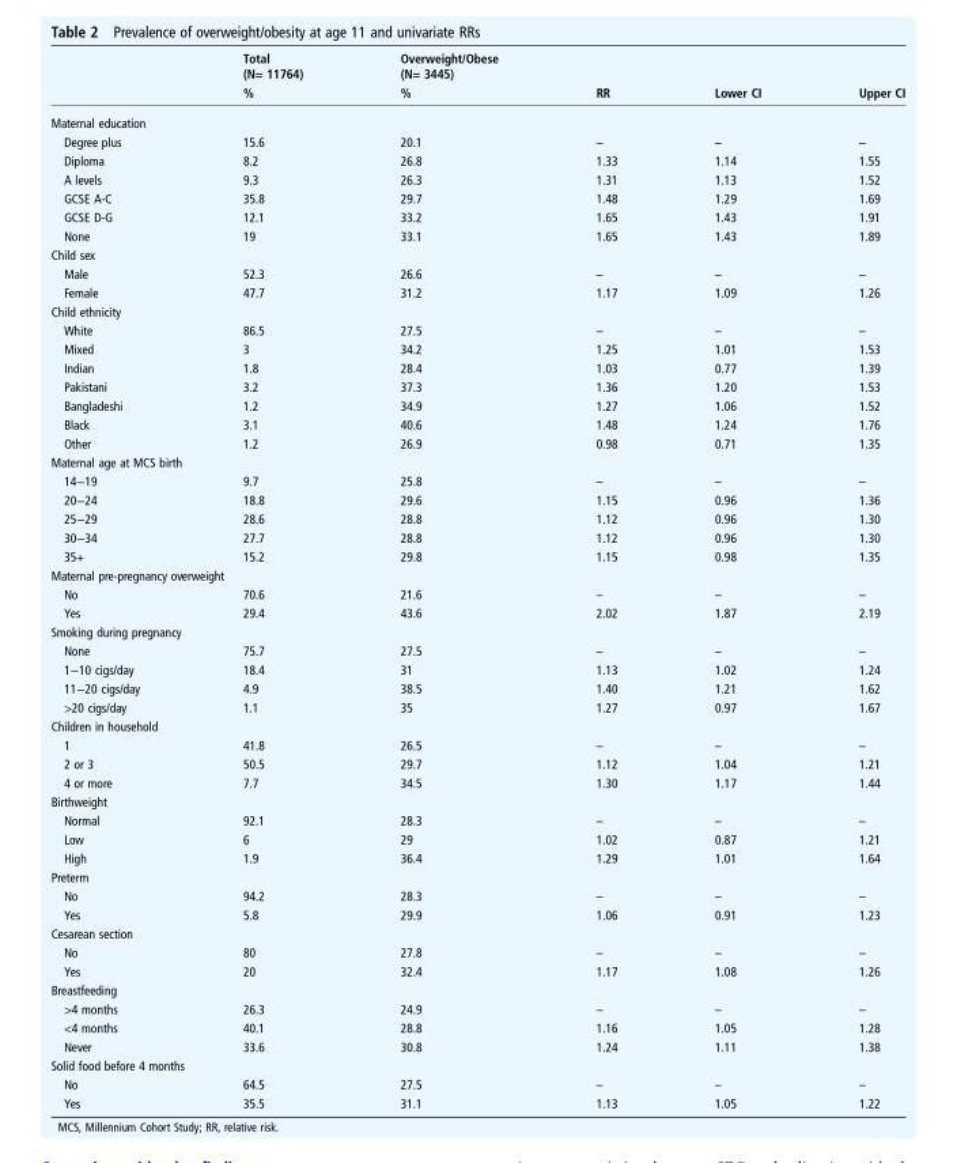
<table><thead><tr><td rowspan="2"></td><td rowspan="2">Total (N= 11764) %</td><td rowspan="2">Overweight/Obese (N= 3445) %</td><td rowspan="2">RR</td><td rowspan="2">Lower CI</td><td rowspan="2">Upper CI</td></tr><tr></tr></thead><tbody><tr><td colspan="6">Maternal education</td></tr><tr><td>Degree plus</td><td>15.6</td><td>20.1</td><td>–</td><td>–</td><td>–</td></tr><tr><td>Diploma</td><td>8.2</td><td>26.8</td><td>1.33</td><td>1.14</td><td>1.55</td></tr><tr><td>A levels</td><td>9.3</td><td>26.3</td><td>1.31</td><td>1.13</td><td>1.52</td></tr><tr><td>GCSE A-C</td><td>35.8</td><td>29.7</td><td>1.48</td><td>1.29</td><td>1.69</td></tr><tr><td>GCSE D-G</td><td>12.1</td><td>33.2</td><td>1.65</td><td>1.43</td><td>1.91</td></tr><tr><td>None</td><td>19</td><td>33.1</td><td>1.65</td><td>1.43</td><td>1.89</td></tr><tr><td colspan="6">Child sex</td></tr><tr><td>Male</td><td>52.3</td><td>26.6</td><td>–</td><td>–</td><td>–</td></tr><tr><td>Female</td><td>47.7</td><td>31.2</td><td>1.17</td><td>1.09</td><td>1.26</td></tr><tr><td colspan="6">Child ethnicity</td></tr><tr><td>White</td><td>86.5</td><td>27.5</td><td>–</td><td>–</td><td>–</td></tr><tr><td>Mixed</td><td>3</td><td>34.2</td><td>1.25</td><td>1.01</td><td>1.53</td></tr><tr><td>Indian</td><td>1.8</td><td>28.4</td><td>1.03</td><td>0.77</td><td>1.39</td></tr><tr><td>Pakistani</td><td>3.2</td><td>37.3</td><td>1.36</td><td>1.20</td><td>1.53</td></tr><tr><td>Bangladeshi</td><td>1.2</td><td>34.9</td><td>1.27</td><td>1.06</td><td>1.52</td></tr><tr><td>Black</td><td>3.1</td><td>40.6</td><td>1.48</td><td>1.24</td><td>1.76</td></tr><tr><td>Other</td><td>1.2</td><td>26.9</td><td>0.98</td><td>0.71</td><td>1.35</td></tr><tr><td colspan="6">Maternal age at MCS birth</td></tr><tr><td>14−19</td><td>9.7</td><td>25.8</td><td>–</td><td>–</td><td>–</td></tr><tr><td>20−24</td><td>18.8</td><td>29.6</td><td>1.15</td><td>0.96</td><td>1.36</td></tr><tr><td>25−29</td><td>28.6</td><td>28.8</td><td>1.12</td><td>0.96</td><td>1.30</td></tr><tr><td>30−34</td><td>27.7</td><td>28.8</td><td>1.12</td><td>0.96</td><td>1.30</td></tr><tr><td>35+</td><td>15.2</td><td>29.8</td><td>1.15</td><td>0.98</td><td>1.35</td></tr><tr><td colspan="6">Maternal pre-pregnancy overweight</td></tr><tr><td>No</td><td>70.6</td><td>21.6</td><td>–</td><td>–</td><td>–</td></tr><tr><td>Yes</td><td>29.4</td><td>43.6</td><td>2.02</td><td>1.87</td><td>2.19</td></tr><tr><td colspan="6">Smoking during pregnancy</td></tr><tr><td>None</td><td>75.7</td><td>27.5</td><td>–</td><td>–</td><td>–</td></tr><tr><td>1−10 cigs/day</td><td>18.4</td><td>31</td><td>1.13</td><td>1.02</td><td>1.24</td></tr><tr><td>11−20 cigs/day</td><td>4.9</td><td>38.5</td><td>1.40</td><td>1.21</td><td>1.62</td></tr><tr><td>&gt;20 cigs/day</td><td>1.1</td><td>35</td><td>1.27</td><td>0.97</td><td>1.67</td></tr><tr><td colspan="6">Children in household</td></tr><tr><td>1</td><td>41.8</td><td>26.5</td><td>–</td><td>–</td><td>–</td></tr><tr><td>2 or 3</td><td>50.5</td><td>29.7</td><td>1.12</td><td>1.04</td><td>1.21</td></tr><tr><td>4 or more</td><td>7.7</td><td>34.5</td><td>1.30</td><td>1.17</td><td>1.44</td></tr><tr><td colspan="6">Birthweight</td></tr><tr><td>Normal</td><td>92.1</td><td>28.3</td><td>–</td><td>–</td><td>–</td></tr><tr><td>Low</td><td>6</td><td>29</td><td>1.02</td><td>0.87</td><td>1.21</td></tr><tr><td>High</td><td>1.9</td><td>36.4</td><td>1.29</td><td>1.01</td><td>1.64</td></tr><tr><td colspan="6">Preterm</td></tr><tr><td>No</td><td>94.2</td><td>28.3</td><td>–</td><td>–</td><td>–</td></tr><tr><td>Yes</td><td>5.8</td><td>29.9</td><td>1.06</td><td>0.91</td><td>1.23</td></tr><tr><td colspan="6">Cesarean section</td></tr><tr><td>No</td><td>80</td><td>27.8</td><td>–</td><td>–</td><td>–</td></tr><tr><td>Yes</td><td>20</td><td>32.4</td><td>1.17</td><td>1.08</td><td>1.26</td></tr><tr><td colspan="6">Breastfeeding</td></tr><tr><td>&gt;4 months</td><td>26.3</td><td>24.9</td><td>–</td><td>–</td><td>–</td></tr><tr><td>&lt;4 months</td><td>40.1</td><td>28.8</td><td>1.16</td><td>1.05</td><td>1.28</td></tr><tr><td>Never</td><td>33.6</td><td>30.8</td><td>1.24</td><td>1.11</td><td>1.38</td></tr><tr><td colspan="6">Solid food before 4 months</td></tr><tr><td>No</td><td>64.5</td><td>27.5</td><td>–</td><td>–</td><td>–</td></tr><tr><td>Yes</td><td>35.5</td><td>31.1</td><td>1.13</td><td>1.05</td><td>1.22</td></tr></tbody></table>